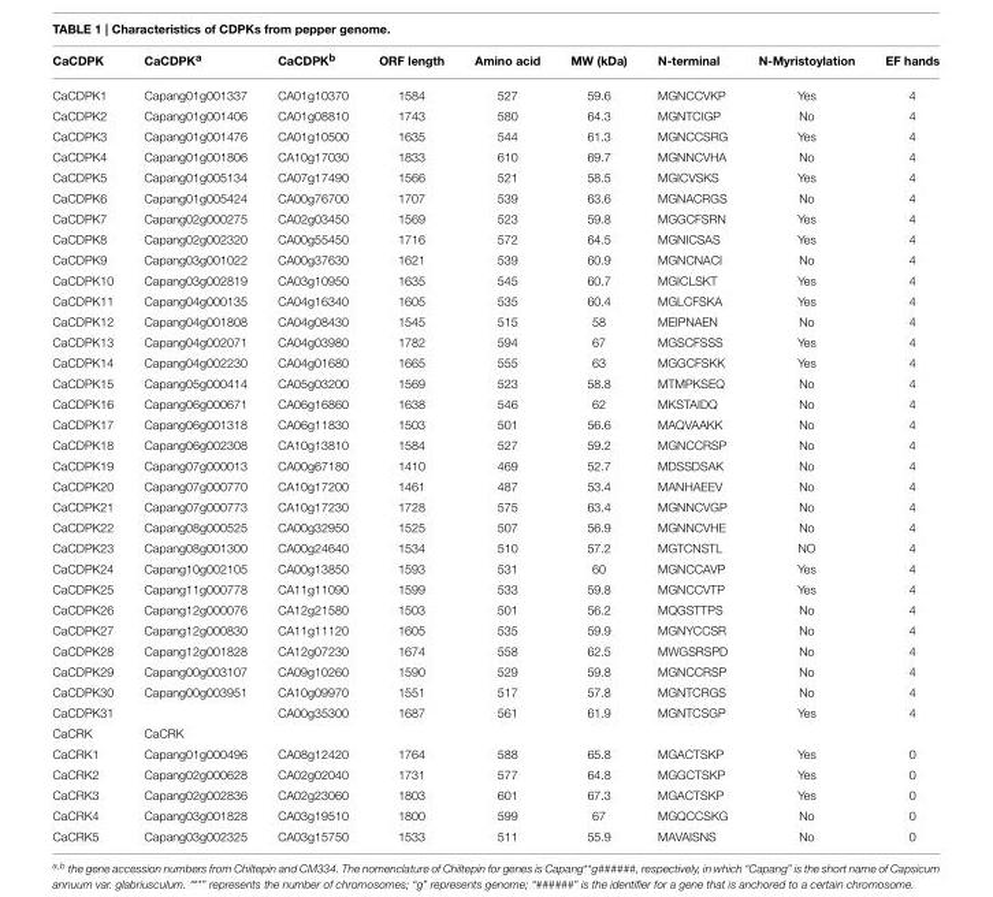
<table><thead><tr><td>CaCDPK</td><td>CaCDPK<sup>a</sup></td><td>CaCDPK<sup>b</sup></td><td>ORF length</td><td>Amino acid</td><td>MW (kDa)</td><td>N-terminal</td><td>N-Myristoylation</td><td>EF hands</td></tr></thead><tbody><tr><td>CaCDPK1</td><td>Capang01g001337</td><td>CA01g10370</td><td>1584</td><td>527</td><td>59.6</td><td>MGNCCVKP</td><td>Yes</td><td>4</td></tr><tr><td>CaCDPK2</td><td>Capang01g001406</td><td>CA01g08810</td><td>1743</td><td>580</td><td>64.3</td><td>MGNTCIGP</td><td>No</td><td>4</td></tr><tr><td>CaCDPK3</td><td>Capang01g001476</td><td>CA01g10500</td><td>1635</td><td>544</td><td>61.3</td><td>MGNCCSRG</td><td>Yes</td><td>4</td></tr><tr><td>CaCDPK4</td><td>Capang01g001806</td><td>CA10g17030</td><td>1833</td><td>610</td><td>69.7</td><td>MGNNCVHA</td><td>No</td><td>4</td></tr><tr><td>CaCDPK5</td><td>Capang01g005134</td><td>CA07g17490</td><td>1566</td><td>521</td><td>58.5</td><td>MGICVSKS</td><td>Yes</td><td>4</td></tr><tr><td>CaCDPK6</td><td>Capang01g005424</td><td>CA00g76700</td><td>1707</td><td>539</td><td>63.6</td><td>MGNACRGS</td><td>No</td><td>4</td></tr><tr><td>CaCDPK7</td><td>Capang02g000275</td><td>CA02g03450</td><td>1569</td><td>523</td><td>59.8</td><td>MGGCFSRN</td><td>Yes</td><td>4</td></tr><tr><td>CaCDPK8</td><td>Capang02g002320</td><td>CA00g55450</td><td>1716</td><td>572</td><td>64.5</td><td>MGNICSAS</td><td>Yes</td><td>4</td></tr><tr><td>CaCDPK9</td><td>Capang03g001022</td><td>CA00g37630</td><td>1621</td><td>539</td><td>60.9</td><td>MGNCNACI</td><td>No</td><td>4</td></tr><tr><td>CaCDPK10</td><td>Capang03g002819</td><td>CA03g10950</td><td>1635</td><td>545</td><td>60.7</td><td>MGICLSKT</td><td>Yes</td><td>4</td></tr><tr><td>CaCDPK11</td><td>Capang04g000135</td><td>CA04g16340</td><td>1605</td><td>535</td><td>60.4</td><td>MGLCFSKA</td><td>Yes</td><td>4</td></tr><tr><td>CaCDPK12</td><td>Capang04g001808</td><td>CA04g08430</td><td>1545</td><td>515</td><td>58</td><td>MEIPNAEN</td><td>No</td><td>4</td></tr><tr><td>CaCDPK13</td><td>Capang04g002071</td><td>CA04g03980</td><td>1782</td><td>594</td><td>67</td><td>MGSCFSSS</td><td>Yes</td><td>4</td></tr><tr><td>CaCDPK14</td><td>Capang04g002230</td><td>CA04g01680</td><td>1665</td><td>555</td><td>63</td><td>MGGCFSKK</td><td>Yes</td><td>4</td></tr><tr><td>CaCDPK15</td><td>Capang05g000414</td><td>CA05g03200</td><td>1569</td><td>523</td><td>58.8</td><td>MTMPKSEQ</td><td>No</td><td>4</td></tr><tr><td>CaCDPK16</td><td>Capang06g000671</td><td>CA06g16860</td><td>1638</td><td>546</td><td>62</td><td>MKSTAIDQ</td><td>No</td><td>4</td></tr><tr><td>CaCDPK17</td><td>Capang06g001318</td><td>CA06g11830</td><td>1503</td><td>501</td><td>56.6</td><td>MAQVAAKK</td><td>No</td><td>4</td></tr><tr><td>CaCDPK18</td><td>Capang06g002308</td><td>CA10g13810</td><td>1584</td><td>527</td><td>59.2</td><td>MGNCCRSP</td><td>No</td><td>4</td></tr><tr><td>CaCDPK19</td><td>Capang07g000013</td><td>CA00g67180</td><td>1410</td><td>469</td><td>52.7</td><td>MDSSDSAK</td><td>No</td><td>4</td></tr><tr><td>CaCDPK20</td><td>Capang07g000770</td><td>CA10g17200</td><td>1461</td><td>487</td><td>53.4</td><td>MANHAEEV</td><td>No</td><td>4</td></tr><tr><td>CaCDPK21</td><td>Capang07g000773</td><td>CA10g17230</td><td>1728</td><td>575</td><td>63.4</td><td>MGNNCVGP</td><td>No</td><td>4</td></tr><tr><td>CaCDPK22</td><td>Capang08g000525</td><td>CA00g32950</td><td>1525</td><td>507</td><td>56.9</td><td>MGNNCVHE</td><td>No</td><td>4</td></tr><tr><td>CaCDPK23</td><td>Capang08g001300</td><td>CA00g24640</td><td>1534</td><td>510</td><td>57.2</td><td>MGTCNSTL</td><td>NO</td><td>4</td></tr><tr><td>CaCDPK24</td><td>Capang10g002105</td><td>CA00g13850</td><td>1593</td><td>531</td><td>60</td><td>MGNCCAVP</td><td>Yes</td><td>4</td></tr><tr><td>CaCDPK25</td><td>Capang11g000778</td><td>CA11g11090</td><td>1599</td><td>533</td><td>59.8</td><td>MGNCCVTP</td><td>Yes</td><td>4</td></tr><tr><td>CaCDPK26</td><td>Capang12g000076</td><td>CA12g21580</td><td>1503</td><td>501</td><td>56.2</td><td>MQGSTTPS</td><td>No</td><td>4</td></tr><tr><td>CaCDPK27</td><td>Capang12g000830</td><td>CA11g11120</td><td>1605</td><td>535</td><td>59.9</td><td>MGNYCCSR</td><td>No</td><td>4</td></tr><tr><td>CaCDPK28</td><td>Capang12g001828</td><td>CA12g07230</td><td>1674</td><td>558</td><td>62.5</td><td>MWGSRSPD</td><td>No</td><td>4</td></tr><tr><td>CaCDPK29</td><td>Capang00g003107</td><td>CA09g10260</td><td>1590</td><td>529</td><td>59.8</td><td>MGNCCRSP</td><td>No</td><td>4</td></tr><tr><td>CaCDPK30</td><td>Capang00g003951</td><td>CA10g09970</td><td>1551</td><td>517</td><td>57.8</td><td>MGNTCRGS</td><td>No</td><td>4</td></tr><tr><td>CaCDPK31</td><td></td><td>CA00g35300</td><td>1687</td><td>561</td><td>61.9</td><td>MGNTCSGP</td><td>Yes</td><td>4</td></tr><tr><td>CaCRK</td><td>CaCRK</td><td></td><td></td><td></td><td></td><td></td><td></td><td></td></tr><tr><td>CaCRK1</td><td>Capang01g000496</td><td>CA08g12420</td><td>1764</td><td>588</td><td>65.8</td><td>MGACTSKP</td><td>Yes</td><td>0</td></tr><tr><td>CaCRK2</td><td>Capang02g000628</td><td>CA02g02040</td><td>1731</td><td>577</td><td>64.8</td><td>MGGCTSKP</td><td>Yes</td><td>0</td></tr><tr><td>CaCRK3</td><td>Capang02g002836</td><td>CA02g23060</td><td>1803</td><td>601</td><td>67.3</td><td>MGACTSKP</td><td>Yes</td><td>0</td></tr><tr><td>CaCRK4</td><td>Capang03g001828</td><td>CA03g19510</td><td>1800</td><td>599</td><td>67</td><td>MGQCCSKG</td><td>No</td><td>0</td></tr><tr><td>CaCRK5</td><td>Capang03g002325</td><td>CA03g15750</td><td>1533</td><td>511</td><td>55.9</td><td>MAVAISNS</td><td>No</td><td>0</td></tr></tbody></table>